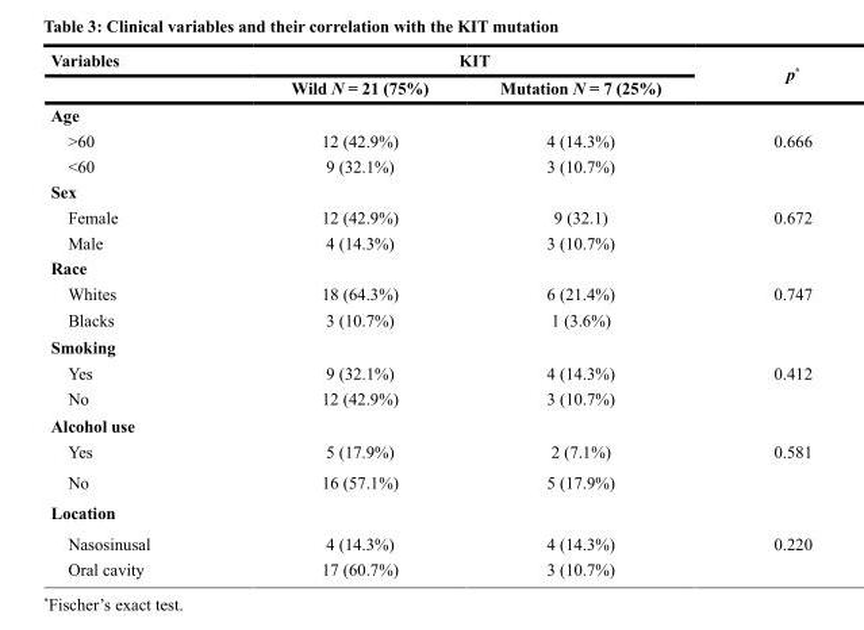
<table><thead><tr><td rowspan="2">Variables</td><td colspan="2">KIT</td><td rowspan="2">p*</td></tr><tr><td>Wild N = 21 (75%)</td><td>Mutation N = 7 (25%)</td></tr></thead><tbody><tr><td colspan="4">Age</td></tr><tr><td>&gt;60</td><td>12 (42.9%)</td><td>4 (14.3%)</td><td rowspan="2">0.666</td></tr><tr><td>&lt;60</td><td>9 (32.1%)</td><td>3 (10.7%)</td></tr><tr><td colspan="4">Sex</td></tr><tr><td>Female</td><td>12 (42.9%)</td><td>9 (32.1)</td><td rowspan="2">0.672</td></tr><tr><td>Male</td><td>4 (14.3%)</td><td>3 (10.7%)</td></tr><tr><td colspan="4">Race</td></tr><tr><td>Whites</td><td>18 (64.3%)</td><td>6 (21.4%)</td><td rowspan="2">0.747</td></tr><tr><td>Blacks</td><td>3 (10.7%)</td><td>1 (3.6%)</td></tr><tr><td colspan="4">Smoking</td></tr><tr><td>Yes</td><td>9 (32.1%)</td><td>4 (14.3%)</td><td rowspan="2">0.412</td></tr><tr><td>No</td><td>12 (42.9%)</td><td>3 (10.7%)</td></tr><tr><td colspan="4">Alcohol use</td></tr><tr><td>Yes</td><td>5 (17.9%)</td><td>2 (7.1%)</td><td rowspan="2">0.581</td></tr><tr><td>No</td><td>16 (57.1%)</td><td>5 (17.9%)</td></tr><tr><td colspan="4">Location</td></tr><tr><td>Nasosinusal</td><td>4 (14.3%)</td><td>4 (14.3%)</td><td rowspan="2">0.220</td></tr><tr><td>Oral cavity</td><td>17 (60.7%)</td><td>3 (10.7%)</td></tr></tbody></table>